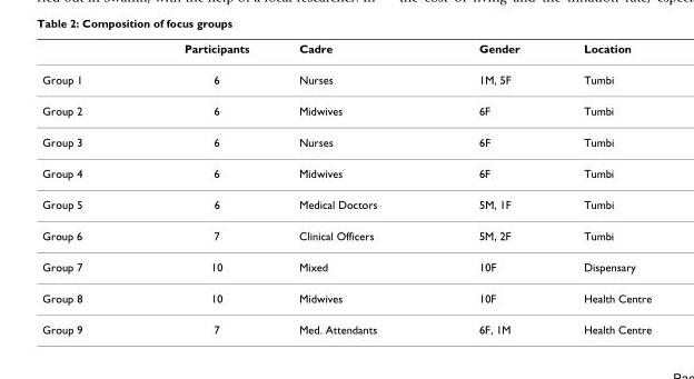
<table><thead><tr><td></td><td>Participants</td><td>Cadre</td><td>Gender</td><td>Location</td></tr></thead><tbody><tr><td>Group 1</td><td>6</td><td>Nurses</td><td>1M, 5F</td><td>Tumbi</td></tr><tr><td>Group 2</td><td>6</td><td>Midwives</td><td>6F</td><td>Tumbi</td></tr><tr><td>Group 3</td><td>6</td><td>Nurses</td><td>6F</td><td>Tumbi</td></tr><tr><td>Group 4</td><td>6</td><td>Midwives</td><td>6F</td><td>Tumbi</td></tr><tr><td>Group 5</td><td>6</td><td>Medical Doctors</td><td>5M, 1F</td><td>Tumbi</td></tr><tr><td>Group 6</td><td>7</td><td>Clinical Officers</td><td>5M, 2F</td><td>Tumbi</td></tr><tr><td>Group 7</td><td>10</td><td>Mixed</td><td>10F</td><td>Dispensary</td></tr><tr><td>Group 8</td><td>10</td><td>Midwives</td><td>10F</td><td>Health Centre</td></tr><tr><td>Group 9</td><td>7</td><td>Med. Attendants</td><td>6F, 1M</td><td>Health Centre</td></tr></tbody></table>